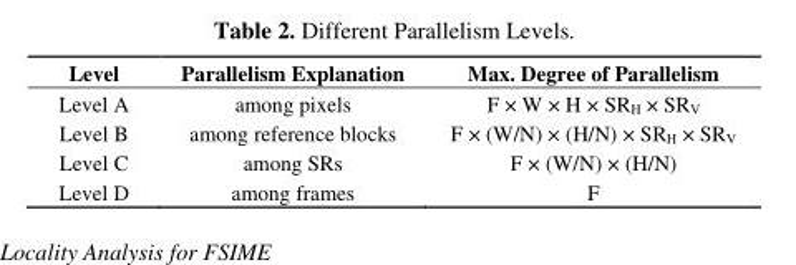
<table><thead><tr><td>Level</td><td>Parallelism Explanation</td><td>Max. Degree of Parallelism</td></tr></thead><tbody><tr><td>Level A</td><td>among pixels</td><td>F × W × H × SR<sub>H</sub> × SR<sub>V</sub></td></tr><tr><td>Level B</td><td>among reference blocks</td><td>F × (W/N) × (H/N) × SR<sub>H</sub> × SR<sub>V</sub></td></tr><tr><td>Level C</td><td>among SRs</td><td>F × (W/N) × (H/N)</td></tr><tr><td>Level D</td><td>among frames</td><td>F</td></tr></tbody></table>